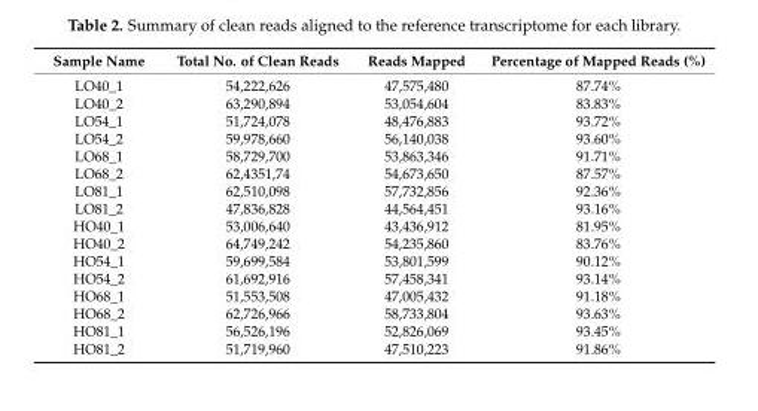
<table><thead><tr><td>Sample Name</td><td>Total No. of Clean Reads</td><td>Reads Mapped</td><td>Percentage of Mapped Reads (%)</td></tr></thead><tbody><tr><td>LO40_1</td><td>54,222,626</td><td>47,575,480</td><td>87.74%</td></tr><tr><td>LO40_2</td><td>63,290,894</td><td>53,054,604</td><td>83.83%</td></tr><tr><td>LO54_1</td><td>51,724,078</td><td>48,476,883</td><td>93.72%</td></tr><tr><td>LO54_2</td><td>59,978,660</td><td>56,140,038</td><td>93.60%</td></tr><tr><td>LO68_1</td><td>58,729,700</td><td>53,863,346</td><td>91.71%</td></tr><tr><td>LO68_2</td><td>62,4351,74</td><td>54,673,650</td><td>87.57%</td></tr><tr><td>LO81_1</td><td>62,510,098</td><td>57,732,856</td><td>92.36%</td></tr><tr><td>LO81_2</td><td>47,836,828</td><td>44,564,451</td><td>93.16%</td></tr><tr><td>HO40_1</td><td>53,006,640</td><td>43,436,912</td><td>81.95%</td></tr><tr><td>HO40_2</td><td>64,749,242</td><td>54,235,860</td><td>83.76%</td></tr><tr><td>HO54_1</td><td>59,699,584</td><td>53,801,599</td><td>90.12%</td></tr><tr><td>HO54_2</td><td>61,692,916</td><td>57,458,341</td><td>93.14%</td></tr><tr><td>HO68_1</td><td>51,553,508</td><td>47,005,432</td><td>91.18%</td></tr><tr><td>HO68_2</td><td>62,726,966</td><td>58,733,804</td><td>93.63%</td></tr><tr><td>HO81_1</td><td>56,526,196</td><td>52,826,069</td><td>93.45%</td></tr><tr><td>HO81_2</td><td>51,719,960</td><td>47,510,223</td><td>91.86%</td></tr></tbody></table>